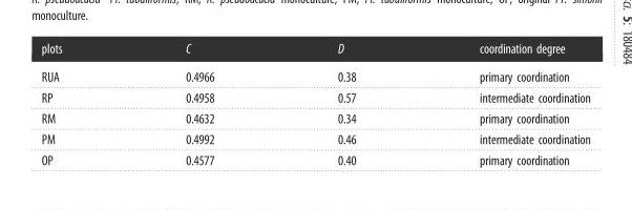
<table><thead><tr><td>plots</td><td>C</td><td>D</td><td>coordination degree</td></tr></thead><tbody><tr><td>RUA</td><td>0.4966</td><td>0.38</td><td>primary coordination</td></tr><tr><td>RP</td><td>0.4958</td><td>0.57</td><td>intermediate coordination</td></tr><tr><td>RM</td><td>0.4632</td><td>0.34</td><td>primary coordination</td></tr><tr><td>PM</td><td>0.4992</td><td>0.46</td><td>intermediate coordination</td></tr><tr><td>OP</td><td>0.4577</td><td>0.40</td><td>primary coordination</td></tr></tbody></table>